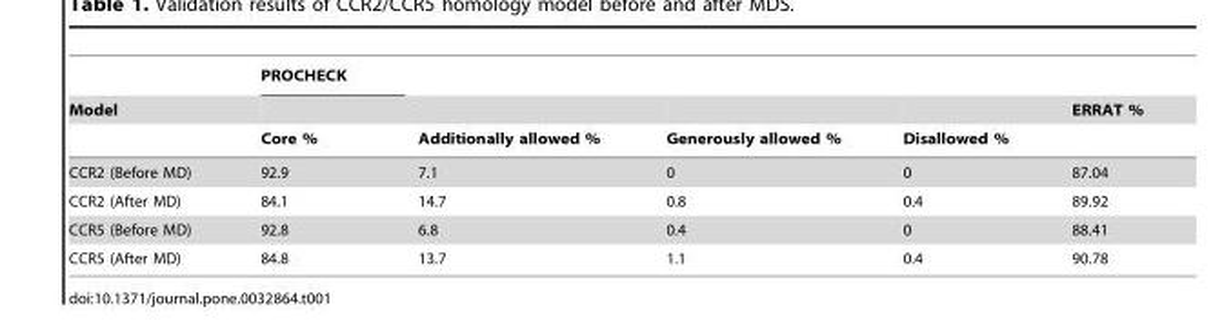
<table><thead><tr><td rowspan="3">Model</td><td rowspan="3">PROCHECK Core %</td><td rowspan="3">Additionally allowed %</td><td rowspan="3">Generously allowed %</td><td rowspan="3">Disallowed %</td><td rowspan="3">ERRAT %</td></tr><tr></tr><tr></tr></thead><tbody><tr><td>CCR2 (Before MD)</td><td>92.9</td><td>7.1</td><td>0</td><td>0</td><td>87.04</td></tr><tr><td>CCR2 (After MD)</td><td>84.1</td><td>14.7</td><td>0.8</td><td>0.4</td><td>89.92</td></tr><tr><td>CCR5 (Before MD)</td><td>92.8</td><td>6.8</td><td>0.4</td><td>0</td><td>88.41</td></tr><tr><td>CCR5 (After MD)</td><td>84.8</td><td>13.7</td><td>1.1</td><td>0.4</td><td>90.78</td></tr></tbody></table>